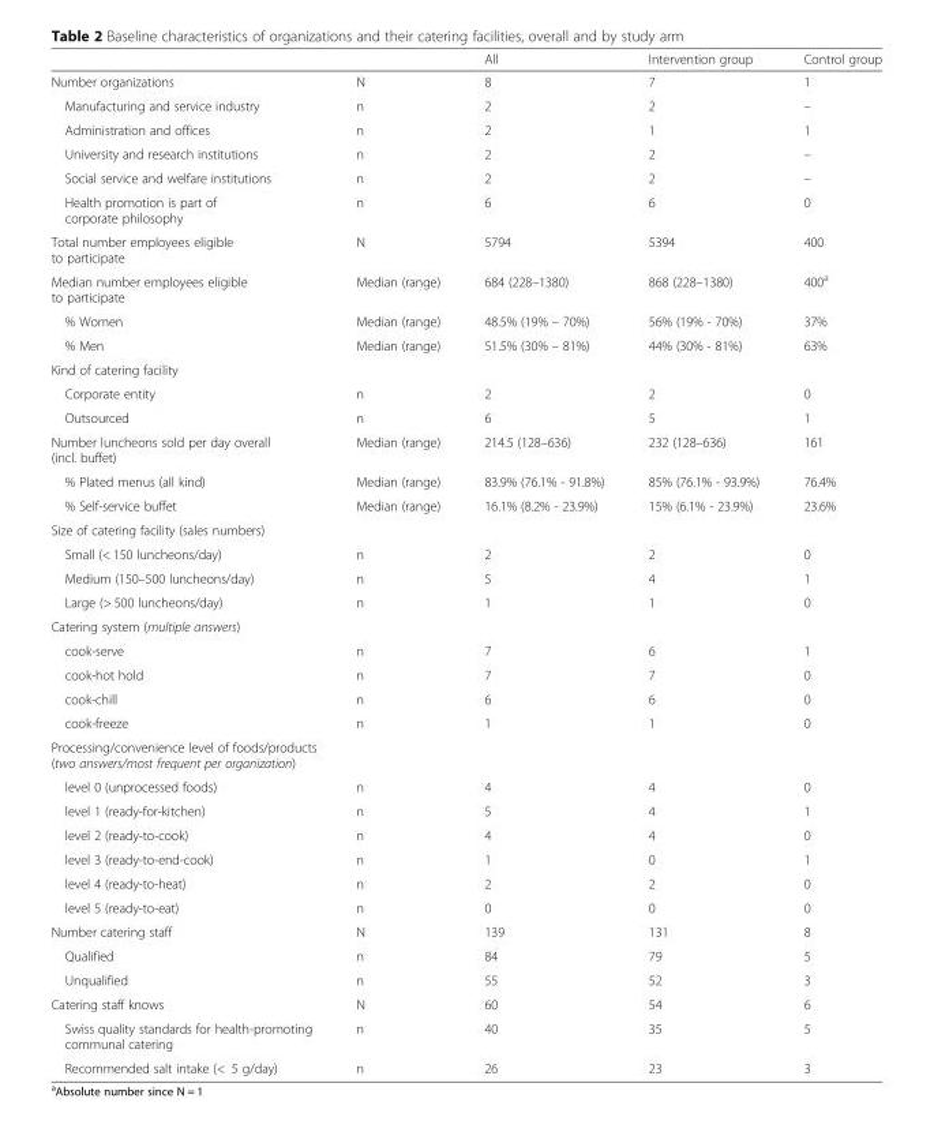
<table><thead><tr><td></td><td></td><td>All</td><td>Intervention group</td><td>Control group</td></tr></thead><tbody><tr><td>Number organizations</td><td>N</td><td>8</td><td>7</td><td>1</td></tr><tr><td>Manufacturing and service industry</td><td>n</td><td>2</td><td>2</td><td>–</td></tr><tr><td>Administration and offices</td><td>n</td><td>2</td><td>1</td><td>1</td></tr><tr><td>University and research institutions</td><td>n</td><td>2</td><td>2</td><td>–</td></tr><tr><td>Social service and welfare institutions</td><td>n</td><td>2</td><td>2</td><td>–</td></tr><tr><td>Health promotion is part of corporate philosophy</td><td>n</td><td>6</td><td>6</td><td>0</td></tr><tr><td>Total number employees eligible to participate</td><td>N</td><td>5794</td><td>5394</td><td>400</td></tr><tr><td>Median number employees eligible to participate</td><td>Median (range)</td><td>684 (228–1380)</td><td>868 (228–1380)</td><td>400<sup>a</sup></td></tr><tr><td>% Women</td><td>Median (range)</td><td>48.5% (19% – 70%)</td><td>56% (19% - 70%)</td><td>37%</td></tr><tr><td>% Men</td><td>Median (range)</td><td>51.5% (30% – 81%)</td><td>44% (30% - 81%)</td><td>63%</td></tr><tr><td colspan="5">Kind of catering facility</td></tr><tr><td>Corporate entity</td><td>n</td><td>2</td><td>2</td><td>0</td></tr><tr><td>Outsourced</td><td>n</td><td>6</td><td>5</td><td>1</td></tr><tr><td>Number luncheons sold per day overall (incl. buffet)</td><td>Median (range)</td><td>214.5 (128–636)</td><td>232 (128–636)</td><td>161</td></tr><tr><td>% Plated menus (all kind)</td><td>Median (range)</td><td>83.9% (76.1% - 91.8%)</td><td>85% (76.1% - 93.9%)</td><td>76.4%</td></tr><tr><td>% Self-service buffet</td><td>Median (range)</td><td>16.1% (8.2% - 23.9%)</td><td>15% (6.1% - 23.9%)</td><td>23.6%</td></tr><tr><td colspan="5">Size of catering facility (sales numbers)</td></tr><tr><td>Small (&lt; 150 luncheons/day)</td><td>n</td><td>2</td><td>2</td><td>0</td></tr><tr><td>Medium (150–500 luncheons/day)</td><td>n</td><td>5</td><td>4</td><td>1</td></tr><tr><td>Large (&gt; 500 luncheons/day)</td><td>n</td><td>1</td><td>1</td><td>0</td></tr><tr><td colspan="5">Catering system (multiple answers)</td></tr><tr><td>cook-serve</td><td>n</td><td>7</td><td>6</td><td>1</td></tr><tr><td>cook-hot hold</td><td>n</td><td>7</td><td>7</td><td>0</td></tr><tr><td>cook-chill</td><td>n</td><td>6</td><td>6</td><td>0</td></tr><tr><td>cook-freeze</td><td>n</td><td>1</td><td>1</td><td>0</td></tr><tr><td colspan="5">Processing/convenience level of foods/products (two answers/most frequent per organization)</td></tr><tr><td>level 0 (unprocessed foods)</td><td>n</td><td>4</td><td>4</td><td>0</td></tr><tr><td>level 1 (ready-for-kitchen)</td><td>n</td><td>5</td><td>4</td><td>1</td></tr><tr><td>level 2 (ready-to-cook)</td><td>n</td><td>4</td><td>4</td><td>0</td></tr><tr><td>level 3 (ready-to-end-cook)</td><td>n</td><td>1</td><td>0</td><td>1</td></tr><tr><td>level 4 (ready-to-heat)</td><td>n</td><td>2</td><td>2</td><td>0</td></tr><tr><td>level 5 (ready-to-eat)</td><td>n</td><td>0</td><td>0</td><td>0</td></tr><tr><td>Number catering staff</td><td>N</td><td>139</td><td>131</td><td>8</td></tr><tr><td>Qualified</td><td>n</td><td>84</td><td>79</td><td>5</td></tr><tr><td>Unqualified</td><td>n</td><td>55</td><td>52</td><td>3</td></tr><tr><td>Catering staff knows</td><td>N</td><td>60</td><td>54</td><td>6</td></tr><tr><td>Swiss quality standards for health-promoting communal catering</td><td>n</td><td>40</td><td>35</td><td>5</td></tr><tr><td>Recommended salt intake (&lt; 5 g/day)</td><td>n</td><td>26</td><td>23</td><td>3</td></tr></tbody></table>